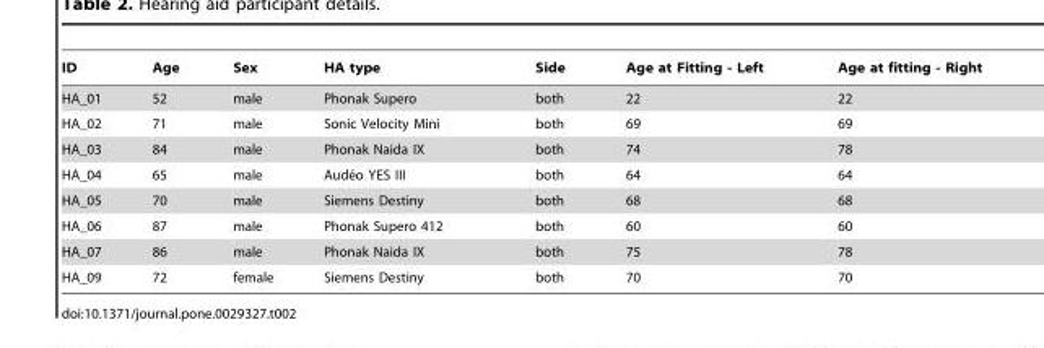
<table><thead><tr><td>ID</td><td>Age</td><td>Sex</td><td>HA type</td><td>Side</td><td>Age at Fitting - Left</td><td>Age at fitting - Right</td></tr></thead><tbody><tr><td>HA_01</td><td>52</td><td>male</td><td>Phonak Supero</td><td>both</td><td>22</td><td>22</td></tr><tr><td>HA_02</td><td>71</td><td>male</td><td>Sonic Velocity Mini</td><td>both</td><td>69</td><td>69</td></tr><tr><td>HA_03</td><td>84</td><td>male</td><td>Phonak Naida IX</td><td>both</td><td>74</td><td>78</td></tr><tr><td>HA_04</td><td>65</td><td>male</td><td>Aude´o YES III</td><td>both</td><td>64</td><td>64</td></tr><tr><td>HA_05</td><td>70</td><td>male</td><td>Siemens Destiny</td><td>both</td><td>68</td><td>68</td></tr><tr><td>HA_06</td><td>87</td><td>male</td><td>Phonak Supero 412</td><td>both</td><td>60</td><td>60</td></tr><tr><td>HA_07</td><td>86</td><td>male</td><td>Phonak Naida IX</td><td>both</td><td>75</td><td>78</td></tr><tr><td>HA_09</td><td>72</td><td>female</td><td>Siemens Destiny</td><td>both</td><td>70</td><td>70</td></tr></tbody></table>